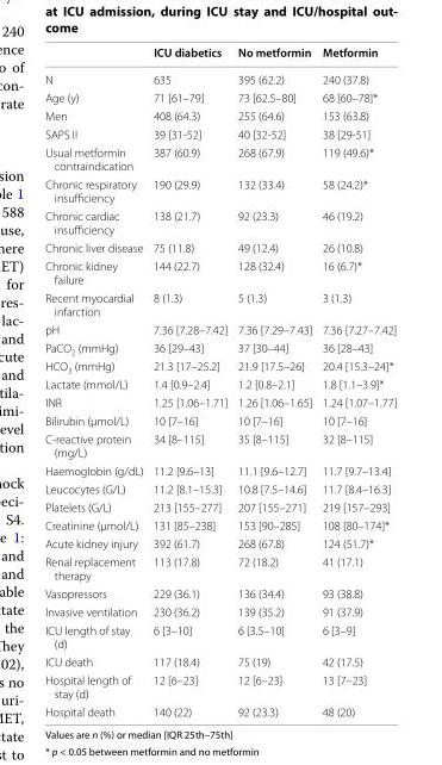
<table><thead><tr><td></td><td>ICU diabetics</td><td>No metformin</td><td>Metformin</td></tr></thead><tbody><tr><td>N</td><td>635</td><td>395 (62.2)</td><td>240 (37.8)</td></tr><tr><td>Age (y)</td><td>71 [61–79]</td><td>73 [62.5–80]</td><td>68 [60–78]*</td></tr><tr><td>Men</td><td>408 (64.3)</td><td>255 (64.6)</td><td>153 (63.8)</td></tr><tr><td>SAPS II</td><td>39 [31‑52]</td><td>40 [32‑52]</td><td>38 [29‑51]</td></tr><tr><td>Usual metformin contraindication</td><td>387 (60.9)</td><td>268 (67.9)</td><td>119 (49.6)*</td></tr><tr><td>Chronic respiratory insufficiency</td><td>190 (29.9)</td><td>132 (33.4)</td><td>58 (24.2)*</td></tr><tr><td>Chronic cardiac insufficiency</td><td>138 (21.7)</td><td>92 (23.3)</td><td>46 (19.2)</td></tr><tr><td>Chronic liver disease</td><td>75 (11.8)</td><td>49 (12.4)</td><td>26 (10.8)</td></tr><tr><td>Chronic kidney failure</td><td>144 (22.7)</td><td>128 (32.4)</td><td>16 (6.7)*</td></tr><tr><td>Recent myocardial infarction</td><td>8 (1.3)</td><td>5 (1.3)</td><td>3 (1.3)</td></tr><tr><td>pH</td><td>7.36 [7.28–7.42]</td><td>7.36 [7.29–7.43]</td><td>7.36 [7.27–7.42]</td></tr><tr><td>PaCO<sub>2</sub> (mmHg)</td><td>36 [29–43]</td><td>37 [30–44]</td><td>36 [28–43]</td></tr><tr><td>HCO<sub>3</sub> (mmHg)</td><td>21.3 [17–25.2]</td><td>21.9 [17.5–26]</td><td>20.4 [15.3–24]*</td></tr><tr><td>Lactate (mmol/L)</td><td>1.4 [0.9–2.4]</td><td>1.2 [0.8–2.1]</td><td>1.8 [1.1–3.9]*</td></tr><tr><td>INR</td><td>1.25 [1.06–1.71]</td><td>1.26 [1.06–1.65]</td><td>1.24 [1.07–1.77]</td></tr><tr><td>Bilirubin (µmol/L)</td><td>10 [7–16]</td><td>10 [7–16]</td><td>10 [7–16]</td></tr><tr><td>C‑reactive protein (mg/L)</td><td>34 [8–115]</td><td>35 [8–115]</td><td>32 [8–115]</td></tr><tr><td>Haemoglobin (g/dL)</td><td>11.2 [9.6–13]</td><td>11.1 [9.6–12.7]</td><td>11.7 [9.7–13.4]</td></tr><tr><td>Leucocytes (G/L)</td><td>11.2 [8.1–15.3]</td><td>10.8 [7.5–14.6]</td><td>11.7 [8.4–16.3]</td></tr><tr><td>Platelets (G/L)</td><td>213 [155–277]</td><td>207 [155–271]</td><td>219 [157–293]</td></tr><tr><td>Creatinine (µmol/L)</td><td>131 [85–238]</td><td>153 [90–285]</td><td>108 [80–174]*</td></tr><tr><td>Acute kidney injury</td><td>392 (61.7)</td><td>268 (67.8)</td><td>124 (51.7)*</td></tr><tr><td>Renal replacement therapy</td><td>113 (17.8)</td><td>72 (18.2)</td><td>41 (17.1)</td></tr><tr><td>Vasopressors</td><td>229 (36.1)</td><td>136 (34.4)</td><td>93 (38.8)</td></tr><tr><td>Invasive ventilation</td><td>230 (36.2)</td><td>139 (35.2)</td><td>91 (37.9)</td></tr><tr><td>ICU length of stay (d)</td><td>6 [3–10]</td><td>6 [3.5–10]</td><td>6 [3–9]</td></tr><tr><td>ICU death</td><td>117 (18.4)</td><td>75 (19)</td><td>42 (17.5)</td></tr><tr><td>Hospital length of stay (d)</td><td>12 [6–23]</td><td>12 [6–23]</td><td>13 [7–23]</td></tr><tr><td>Hospital death</td><td>140 (22)</td><td>92 (23.3)</td><td>48 (20)</td></tr></tbody></table>